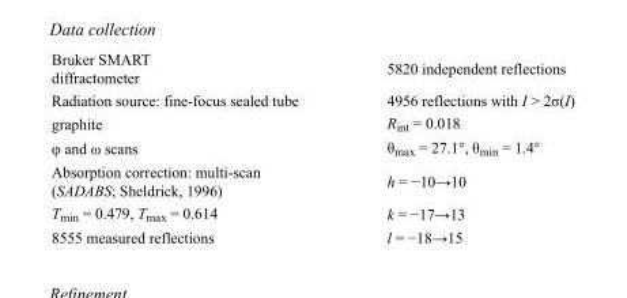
<table><tbody><tr><td>Bruker SMART diffractometer</td><td>5820 independent reflections</td></tr><tr><td>Radiation source: fine-focus sealed tube</td><td>4956 reflections with I &gt; 2σ(I)</td></tr><tr><td>graphite</td><td>R<sub>int</sub> = 0.018</td></tr><tr><td>φ and ω scans</td><td>θ<sub>max</sub> = 27.1°, θ<sub>min</sub> = 1.4°</td></tr><tr><td>Absorption correction: multi-scan (SADABS; Sheldrick, 1996)</td><td>h = −10→10</td></tr><tr><td>T<sub>min</sub> = 0.479, T<sub>max</sub> = 0.614</td><td>k = −17→13</td></tr><tr><td>8555 measured reflections</td><td>l = −18→15</td></tr></tbody></table>